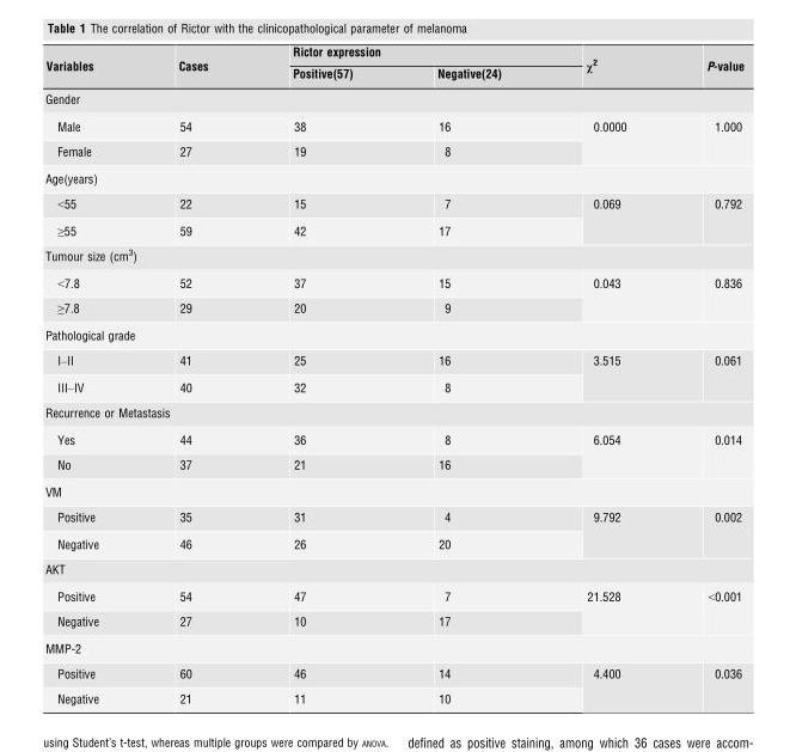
<table><thead><tr><td rowspan="2">Variables</td><td rowspan="2">Cases</td><td colspan="2">Rictor expression</td><td rowspan="2">χ<sup>2</sup></td><td rowspan="2">P-value</td></tr><tr><td>Positive(57)</td><td>Negative(24)</td></tr></thead><tbody><tr><td colspan="6">Gender</td></tr><tr><td>Male</td><td>54</td><td>38</td><td>16</td><td rowspan="2">0.0000</td><td rowspan="2">1.000</td></tr><tr><td>Female</td><td>27</td><td>19</td><td>8</td></tr><tr><td colspan="6">Age(years)</td></tr><tr><td>&lt;55</td><td>22</td><td>15</td><td>7</td><td rowspan="2">0.069</td><td rowspan="2">0.792</td></tr><tr><td>≥55</td><td>59</td><td>42</td><td>17</td></tr><tr><td colspan="6">Tumour size (cm<sup>3</sup>)</td></tr><tr><td>&lt;7.8</td><td>52</td><td>37</td><td>15</td><td rowspan="2">0.043</td><td rowspan="2">0.836</td></tr><tr><td>≥7.8</td><td>29</td><td>20</td><td>9</td></tr><tr><td colspan="6">Pathological grade</td></tr><tr><td>I–II</td><td>41</td><td>25</td><td>16</td><td rowspan="2">3.515</td><td rowspan="2">0.061</td></tr><tr><td>III–IV</td><td>40</td><td>32</td><td>8</td></tr><tr><td colspan="6">Recurrence or Metastasis</td></tr><tr><td>Yes</td><td>44</td><td>36</td><td>8</td><td rowspan="2">6.054</td><td rowspan="2">0.014</td></tr><tr><td>No</td><td>37</td><td>21</td><td>16</td></tr><tr><td colspan="6">VM</td></tr><tr><td>Positive</td><td>35</td><td>31</td><td>4</td><td rowspan="2">9.792</td><td rowspan="2">0.002</td></tr><tr><td>Negative</td><td>46</td><td>26</td><td>20</td></tr><tr><td colspan="6">AKT</td></tr><tr><td>Positive</td><td>54</td><td>47</td><td>7</td><td rowspan="2">21.528</td><td rowspan="2">&lt;0.001</td></tr><tr><td>Negative</td><td>27</td><td>10</td><td>17</td></tr><tr><td colspan="6">MMP-2</td></tr><tr><td>Positive</td><td>60</td><td>46</td><td>14</td><td rowspan="2">4.400</td><td rowspan="2">0.036</td></tr><tr><td>Negative</td><td>21</td><td>11</td><td>10</td></tr></tbody></table>